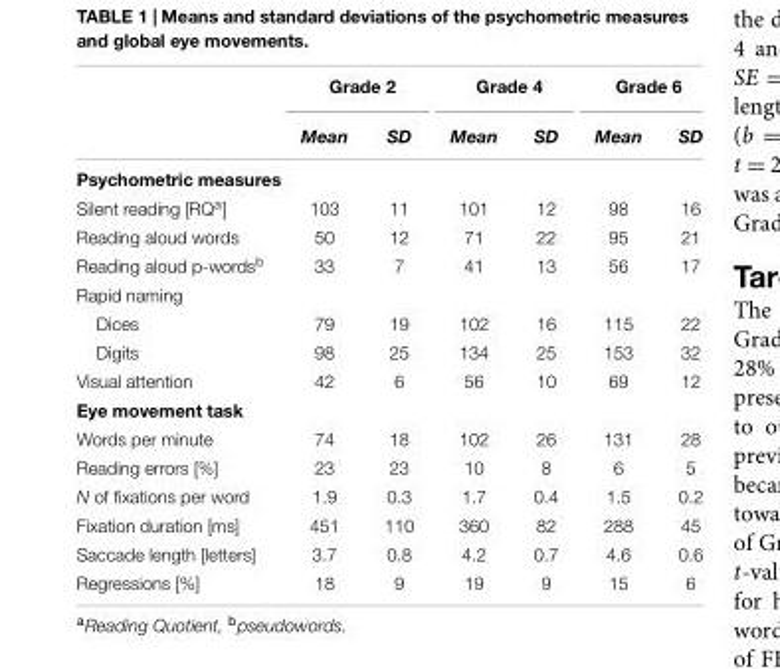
<table><thead><tr><td rowspan="2"></td><td colspan="2">Grade 2</td><td colspan="2">Grade 4</td><td colspan="2">Grade 6</td></tr><tr><td>Mean</td><td>SD</td><td>Mean</td><td>SD</td><td>Mean</td><td>SD</td></tr></thead><tbody><tr><td colspan="7">Psychometric measures</td></tr><tr><td>Silent reading [RQ<sup>a</sup>]</td><td>103</td><td>11</td><td>101</td><td>12</td><td>98</td><td>16</td></tr><tr><td>Reading aloud words</td><td>50</td><td>12</td><td>71</td><td>22</td><td>95</td><td>21</td></tr><tr><td>Reading aloud p-words<sup>b</sup></td><td>33</td><td>7</td><td>41</td><td>13</td><td>56</td><td>17</td></tr><tr><td colspan="7">Rapid naming</td></tr><tr><td>Dices</td><td>79</td><td>19</td><td>102</td><td>16</td><td>115</td><td>22</td></tr><tr><td>Digits</td><td>98</td><td>25</td><td>134</td><td>25</td><td>153</td><td>32</td></tr><tr><td>Visual attention</td><td>42</td><td>6</td><td>56</td><td>10</td><td>69</td><td>12</td></tr><tr><td colspan="7">Eye movement task</td></tr><tr><td>Words per minute</td><td>74</td><td>18</td><td>102</td><td>26</td><td>131</td><td>28</td></tr><tr><td>Reading errors [%]</td><td>23</td><td>23</td><td>10</td><td>8</td><td>6</td><td>5</td></tr><tr><td>N of fixations per word</td><td>1.9</td><td>0.3</td><td>1.7</td><td>0.4</td><td>1.5</td><td>0.2</td></tr><tr><td>Fixation duration [ms]</td><td>451</td><td>110</td><td>360</td><td>82</td><td>288</td><td>45</td></tr><tr><td>Saccade length [letters]</td><td>3.7</td><td>0.8</td><td>4.2</td><td>0.7</td><td>4.6</td><td>0.6</td></tr><tr><td>Regressions [%]</td><td>18</td><td>9</td><td>19</td><td>9</td><td>15</td><td>6</td></tr></tbody></table>